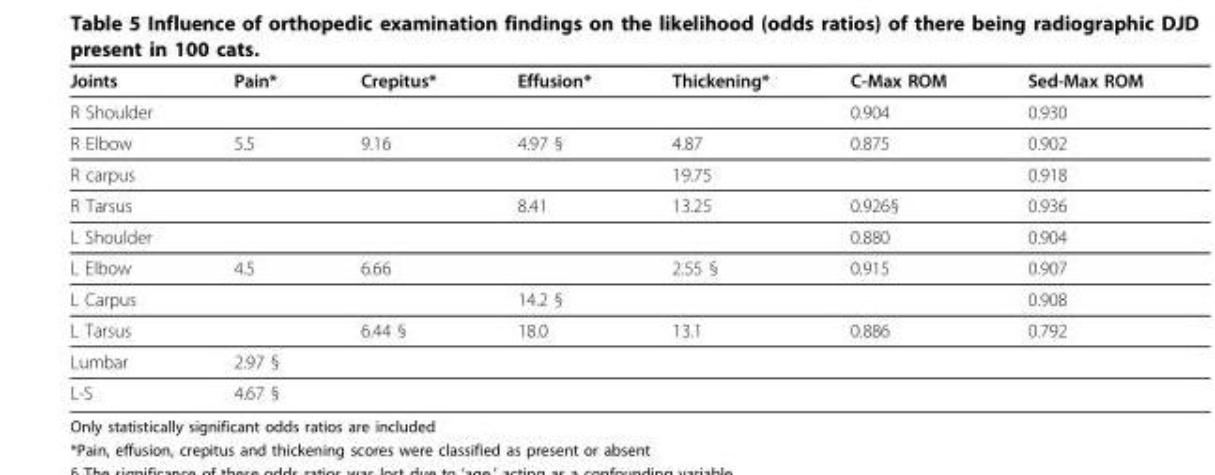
<table><thead><tr><td>Joints</td><td>Pain*</td><td>Crepitus*</td><td>Effusion*</td><td>Thickening*</td><td>C-Max ROM</td><td>Sed-Max ROM</td></tr></thead><tbody><tr><td>R Shoulder</td><td></td><td></td><td></td><td></td><td>0.904</td><td>0.930</td></tr><tr><td>R Elbow</td><td>5.5</td><td>9.16</td><td>4.97 §</td><td>4.87</td><td>0.875</td><td>0.902</td></tr><tr><td>R carpus</td><td></td><td></td><td></td><td>19.75</td><td></td><td>0.918</td></tr><tr><td>R Tarsus</td><td></td><td></td><td>8.41</td><td>13.25</td><td>0.926§</td><td>0.936</td></tr><tr><td>L Shoulder</td><td></td><td></td><td></td><td></td><td>0.880</td><td>0.904</td></tr><tr><td>L Elbow</td><td>4.5</td><td>6.66</td><td></td><td>2.55 §</td><td>0.915</td><td>0.907</td></tr><tr><td>L Carpus</td><td></td><td></td><td>14.2 §</td><td></td><td></td><td>0.908</td></tr><tr><td>L Tarsus</td><td></td><td>6.44 §</td><td>18.0</td><td>13.1</td><td>0.886</td><td>0.792</td></tr><tr><td>Lumbar</td><td>2.97 §</td><td></td><td></td><td></td><td></td><td></td></tr><tr><td>L-S</td><td>4.67 §</td><td></td><td></td><td></td><td></td><td></td></tr></tbody></table>